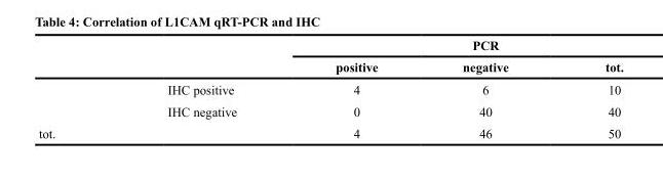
<table><thead><tr><td rowspan="2"></td><td rowspan="2"></td><td colspan="3">PCR</td></tr><tr><td>positive</td><td>negative</td><td>tot.</td></tr></thead><tbody><tr><td></td><td>IHC positive</td><td>4</td><td>6</td><td>10</td></tr><tr><td></td><td>IHC negative</td><td>0</td><td>40</td><td>40</td></tr><tr><td>tot.</td><td></td><td>4</td><td>46</td><td>50</td></tr></tbody></table>